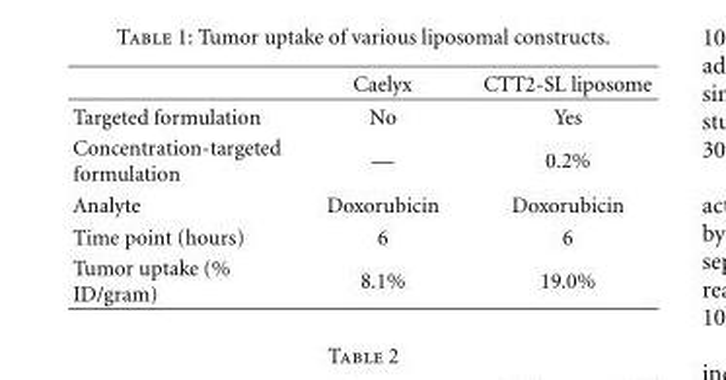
<table><thead><tr><td></td><td>Caelyx</td><td>CTT2-SL liposome</td></tr></thead><tbody><tr><td>Targeted formulation</td><td>No</td><td>Yes</td></tr><tr><td>Concentration-targeted formulation</td><td>—</td><td>0.2%</td></tr><tr><td>Analyte</td><td>Doxorubicin</td><td>Doxorubicin</td></tr><tr><td>Time point (hours)</td><td>6</td><td>6</td></tr><tr><td>Tumor uptake (% ID/gram)</td><td>8.1%</td><td>19.0%</td></tr></tbody></table>